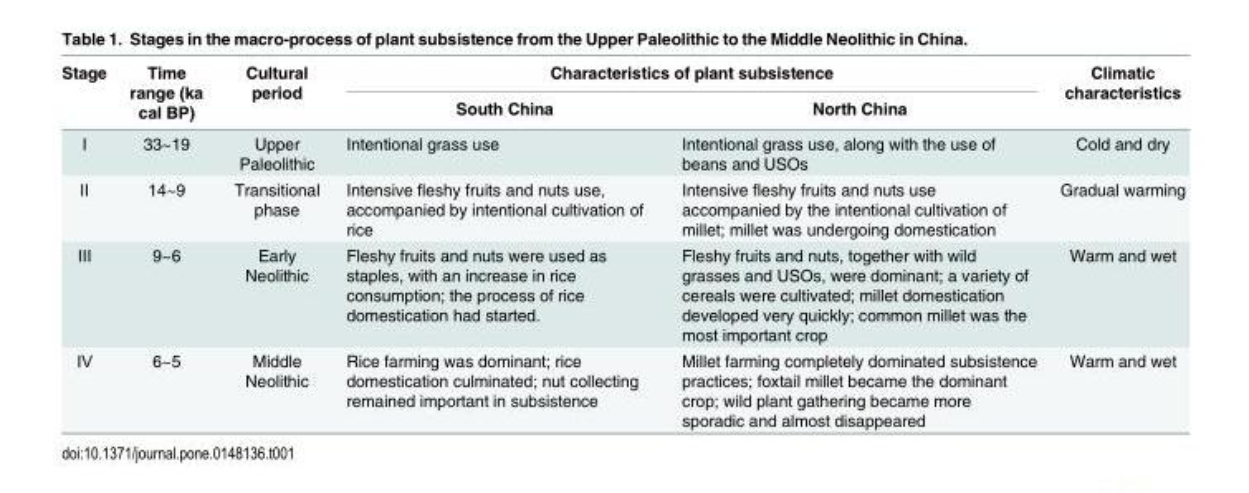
<table><thead><tr><td rowspan="2">Stage</td><td rowspan="2">Time range (ka cal BP)</td><td rowspan="2">Cultural period</td><td colspan="2">Characteristics of plant subsistence</td><td rowspan="2">Climatic characteristics</td></tr><tr><td>South China</td><td>North China</td></tr></thead><tbody><tr><td>Ⅰ</td><td>33~19</td><td>Upper Paleolithic</td><td>Intentional grass use</td><td>Intentional grass use, along with the use of beans and USOs</td><td>Cold and dry</td></tr><tr><td>Ⅱ</td><td>14~9</td><td>Transitional phase</td><td>Intensive fleshy fruits and nuts use, accompanied by intentional cultivation of rice</td><td>Intensive fleshy fruits and nuts use accompanied by the intentional cultivation of millet; millet was undergoing domestication</td><td>Gradual warming</td></tr><tr><td>Ⅲ</td><td>9~6</td><td>Early Neolithic</td><td>Fleshy fruits and nuts were used as staples, with an increase in rice consumption; the process of rice domestication had started.</td><td>Fleshy fruits and nuts, together with wild grasses and USOs, were dominant; a variety of cereals were cultivated; millet domestication developed very quickly; common millet was the most important crop</td><td>Warm and wet</td></tr><tr><td>Ⅳ</td><td>6~5</td><td>Middle Neolithic</td><td>Rice farming was dominant; rice domestication culminated; nut collecting remained important in subsistence</td><td>Millet farming completely dominated subsistence practices; foxtail millet became the dominant crop; wild plant gathering became more sporadic and almost disappeared</td><td>Warm and wet</td></tr></tbody></table>